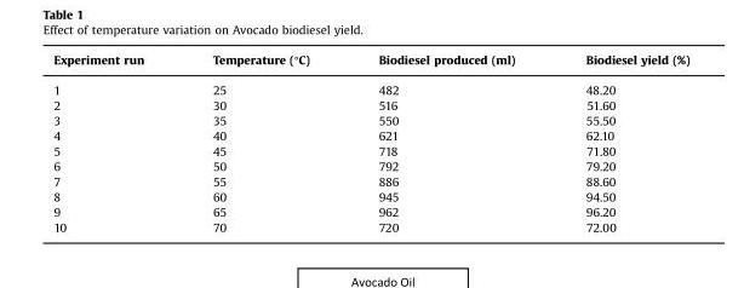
<table><thead><tr><td>Experiment run</td><td>Temperature (°C)</td><td>Biodiesel produced (ml)</td><td>Biodiesel yield (%)</td></tr></thead><tbody><tr><td>1</td><td>25</td><td>482</td><td>48.20</td></tr><tr><td>2</td><td>30</td><td>516</td><td>51.60</td></tr><tr><td>3</td><td>35</td><td>550</td><td>55.50</td></tr><tr><td>4</td><td>40</td><td>621</td><td>62.10</td></tr><tr><td>5</td><td>45</td><td>718</td><td>71.80</td></tr><tr><td>6</td><td>50</td><td>792</td><td>79.20</td></tr><tr><td>7</td><td>55</td><td>886</td><td>88.60</td></tr><tr><td>8</td><td>60</td><td>945</td><td>94.50</td></tr><tr><td>9</td><td>65</td><td>962</td><td>96.20</td></tr><tr><td>10</td><td>70</td><td>720</td><td>72.00</td></tr></tbody></table>